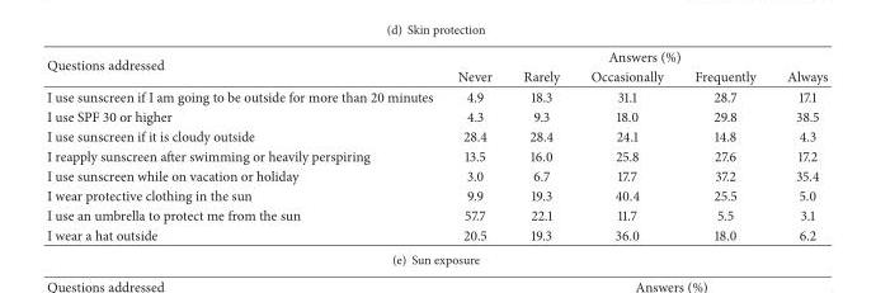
<table><thead><tr><td rowspan="2">Questions addressed</td><td colspan="5">Answers (%)</td></tr><tr><td>Never</td><td>Rarely</td><td>Occasionally</td><td>Frequently</td><td>Always</td></tr></thead><tbody><tr><td>I use sunscreen if I am going to be outside for more than 20 minutes</td><td>4.9</td><td>18.3</td><td>31.1</td><td>28.7</td><td>17.1</td></tr><tr><td>I use SPF 30 or higher</td><td>4.3</td><td>9.3</td><td>18.0</td><td>29.8</td><td>38.5</td></tr><tr><td>I use sunscreen if it is cloudy outside</td><td>28.4</td><td>28.4</td><td>24.1</td><td>14.8</td><td>4.3</td></tr><tr><td>I reapply sunscreen after swimming or heavily perspiring</td><td>13.5</td><td>16.0</td><td>25.8</td><td>27.6</td><td>17.2</td></tr><tr><td>I use sunscreen while on vacation or holiday</td><td>3.0</td><td>6.7</td><td>17.7</td><td>37.2</td><td>35.4</td></tr><tr><td>I wear protective clothing in the sun</td><td>9.9</td><td>19.3</td><td>40.4</td><td>25.5</td><td>5.0</td></tr><tr><td>I use an umbrella to protect me from the sun</td><td>57.7</td><td>22.1</td><td>11.7</td><td>5.5</td><td>3.1</td></tr><tr><td>I wear a hat outside</td><td>20.5</td><td>19.3</td><td>36.0</td><td>18.0</td><td>6.2</td></tr></tbody></table>